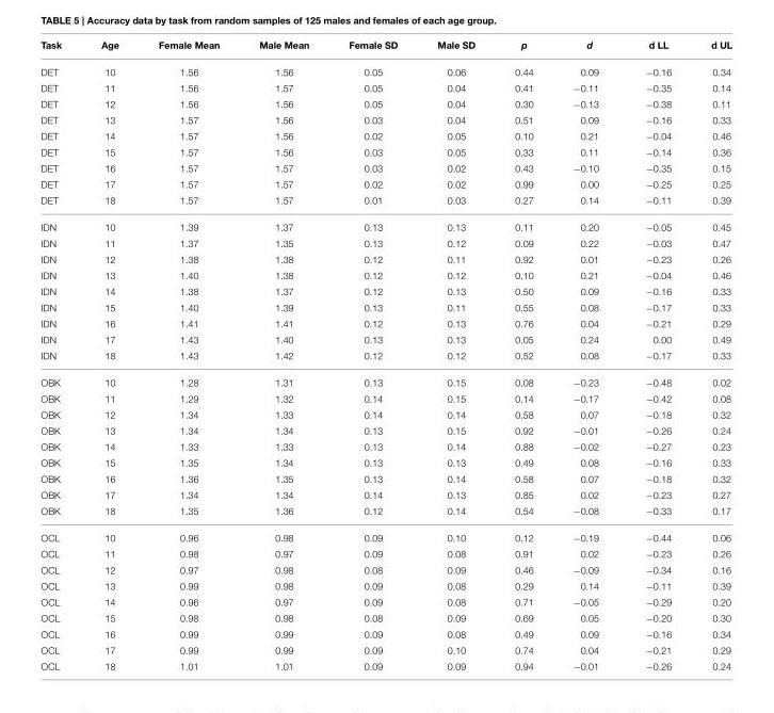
<table><thead><tr><td>Task</td><td>Age</td><td>Female Mean</td><td>Male Mean</td><td>Female SD</td><td>Male SD</td><td>p</td><td>d</td><td>d LL</td><td>d UL</td></tr></thead><tbody><tr><td>DET</td><td>10</td><td>1.56</td><td>1.56</td><td>0.05</td><td>0.06</td><td>0.44</td><td>0.09</td><td>−0.16</td><td>0.34</td></tr><tr><td>DET</td><td>11</td><td>1.56</td><td>1.57</td><td>0.05</td><td>0.04</td><td>0.41</td><td>−0.11</td><td>−0.35</td><td>0.14</td></tr><tr><td>DET</td><td>12</td><td>1.56</td><td>1.56</td><td>0.05</td><td>0.04</td><td>0.30</td><td>−0.13</td><td>−0.38</td><td>0.11</td></tr><tr><td>DET</td><td>13</td><td>1.57</td><td>1.56</td><td>0.03</td><td>0.04</td><td>0.51</td><td>0.09</td><td>−0.16</td><td>0.33</td></tr><tr><td>DET</td><td>14</td><td>1.57</td><td>1.56</td><td>0.02</td><td>0.05</td><td>0.10</td><td>0.21</td><td>−0.04</td><td>0.46</td></tr><tr><td>DET</td><td>15</td><td>1.57</td><td>1.56</td><td>0.03</td><td>0.05</td><td>0.33</td><td>0.11</td><td>−0.14</td><td>0.36</td></tr><tr><td>DET</td><td>16</td><td>1.57</td><td>1.57</td><td>0.03</td><td>0.02</td><td>0.43</td><td>−0.10</td><td>−0.35</td><td>0.15</td></tr><tr><td>DET</td><td>17</td><td>1.57</td><td>1.57</td><td>0.02</td><td>0.02</td><td>0.99</td><td>0.00</td><td>−0.25</td><td>0.25</td></tr><tr><td>DET</td><td>18</td><td>1.57</td><td>1.57</td><td>0.01</td><td>0.03</td><td>0.27</td><td>0.14</td><td>−0.11</td><td>0.39</td></tr><tr><td>IDN</td><td>10</td><td>1.39</td><td>1.37</td><td>0.13</td><td>0.13</td><td>0.11</td><td>0.20</td><td>−0.05</td><td>0.45</td></tr><tr><td>IDN</td><td>11</td><td>1.37</td><td>1.35</td><td>0.13</td><td>0.12</td><td>0.09</td><td>0.22</td><td>−0.03</td><td>0.47</td></tr><tr><td>IDN</td><td>12</td><td>1.38</td><td>1.38</td><td>0.12</td><td>0.11</td><td>0.92</td><td>0.01</td><td>−0.23</td><td>0.26</td></tr><tr><td>IDN</td><td>13</td><td>1.40</td><td>1.38</td><td>0.12</td><td>0.12</td><td>0.10</td><td>0.21</td><td>−0.04</td><td>0.46</td></tr><tr><td>IDN</td><td>14</td><td>1.38</td><td>1.37</td><td>0.12</td><td>0.13</td><td>0.50</td><td>0.09</td><td>−0.16</td><td>0.33</td></tr><tr><td>IDN</td><td>15</td><td>1.40</td><td>1.39</td><td>0.13</td><td>0.11</td><td>0.55</td><td>0.08</td><td>−0.17</td><td>0.33</td></tr><tr><td>IDN</td><td>16</td><td>1.41</td><td>1.41</td><td>0.12</td><td>0.13</td><td>0.76</td><td>0.04</td><td>−0.21</td><td>0.29</td></tr><tr><td>IDN</td><td>17</td><td>1.43</td><td>1.40</td><td>0.13</td><td>0.13</td><td>0.05</td><td>0.24</td><td>0.00</td><td>0.49</td></tr><tr><td>IDN</td><td>18</td><td>1.43</td><td>1.42</td><td>0.12</td><td>0.12</td><td>0.52</td><td>0.08</td><td>−0.17</td><td>0.33</td></tr><tr><td>OBK</td><td>10</td><td>1.28</td><td>1.31</td><td>0.13</td><td>0.15</td><td>0.08</td><td>−0.23</td><td>−0.48</td><td>0.02</td></tr><tr><td>OBK</td><td>11</td><td>1.29</td><td>1.32</td><td>0.14</td><td>0.15</td><td>0.14</td><td>−0.17</td><td>−0.42</td><td>0.08</td></tr><tr><td>OBK</td><td>12</td><td>1.34</td><td>1.33</td><td>0.14</td><td>0.14</td><td>0.58</td><td>0.07</td><td>−0.18</td><td>0.32</td></tr><tr><td>OBK</td><td>13</td><td>1.34</td><td>1.34</td><td>0.13</td><td>0.15</td><td>0.92</td><td>−0.01</td><td>−0.26</td><td>0.24</td></tr><tr><td>OBK</td><td>14</td><td>1.33</td><td>1.33</td><td>0.13</td><td>0.14</td><td>0.88</td><td>−0.02</td><td>−0.27</td><td>0.23</td></tr><tr><td>OBK</td><td>15</td><td>1.35</td><td>1.34</td><td>0.13</td><td>0.13</td><td>0.49</td><td>0.08</td><td>−0.16</td><td>0.33</td></tr><tr><td>OBK</td><td>16</td><td>1.36</td><td>1.35</td><td>0.13</td><td>0.14</td><td>0.58</td><td>0.07</td><td>−0.18</td><td>0.32</td></tr><tr><td>OBK</td><td>17</td><td>1.34</td><td>1.34</td><td>0.14</td><td>0.13</td><td>0.85</td><td>0.02</td><td>−0.23</td><td>0.27</td></tr><tr><td>OBK</td><td>18</td><td>1.35</td><td>1.36</td><td>0.12</td><td>0.14</td><td>0.54</td><td>−0.08</td><td>−0.33</td><td>0.17</td></tr><tr><td>OCL</td><td>10</td><td>0.96</td><td>0.98</td><td>0.09</td><td>0.10</td><td>0.12</td><td>−0.19</td><td>−0.44</td><td>0.06</td></tr><tr><td>OCL</td><td>11</td><td>0.98</td><td>0.97</td><td>0.09</td><td>0.08</td><td>0.91</td><td>0.02</td><td>−0.23</td><td>0.26</td></tr><tr><td>OCL</td><td>12</td><td>0.97</td><td>0.98</td><td>0.08</td><td>0.09</td><td>0.46</td><td>−0.09</td><td>−0.34</td><td>0.16</td></tr><tr><td>OCL</td><td>13</td><td>0.99</td><td>0.98</td><td>0.09</td><td>0.08</td><td>0.29</td><td>0.14</td><td>−0.11</td><td>0.39</td></tr><tr><td>OCL</td><td>14</td><td>0.96</td><td>0.97</td><td>0.09</td><td>0.08</td><td>0.71</td><td>−0.05</td><td>−0.29</td><td>0.20</td></tr><tr><td>OCL</td><td>15</td><td>0.98</td><td>0.98</td><td>0.08</td><td>0.09</td><td>0.69</td><td>0.05</td><td>−0.20</td><td>0.30</td></tr><tr><td>OCL</td><td>16</td><td>0.99</td><td>0.99</td><td>0.09</td><td>0.08</td><td>0.49</td><td>0.09</td><td>−0.16</td><td>0.34</td></tr><tr><td>OCL</td><td>17</td><td>0.99</td><td>0.99</td><td>0.09</td><td>0.10</td><td>0.74</td><td>0.04</td><td>−0.21</td><td>0.29</td></tr><tr><td>OCL</td><td>18</td><td>1.01</td><td>1.01</td><td>0.09</td><td>0.09</td><td>0.94</td><td>−0.01</td><td>−0.26</td><td>0.24</td></tr></tbody></table>